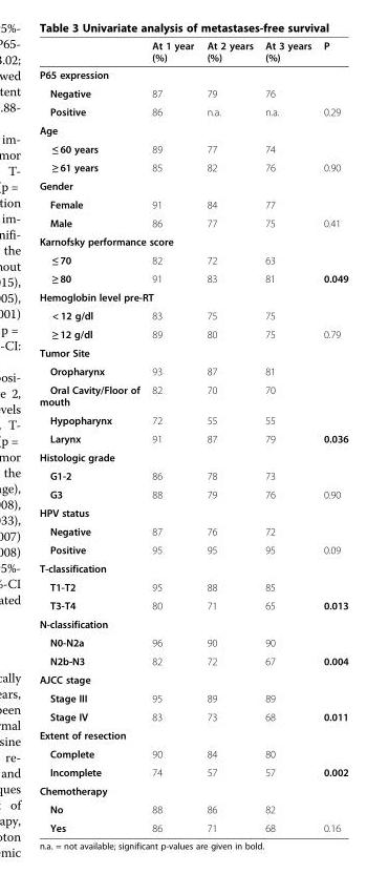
<table><thead><tr><td></td><td>At 1 year (%)</td><td>At 2 years (%)</td><td>At 3 years (%)</td><td>P</td></tr></thead><tbody><tr><td colspan="5">P65 expression</td></tr><tr><td>Negative</td><td>87</td><td>79</td><td>76</td><td></td></tr><tr><td>Positive</td><td>86</td><td>n.a.</td><td>n.a.</td><td>0.29</td></tr><tr><td colspan="5">Age</td></tr><tr><td>≤ 60 years</td><td>89</td><td>77</td><td>74</td><td></td></tr><tr><td>≥ 61 years</td><td>85</td><td>82</td><td>76</td><td>0.90</td></tr><tr><td colspan="5">Gender</td></tr><tr><td>Female</td><td>91</td><td>84</td><td>77</td><td></td></tr><tr><td>Male</td><td>86</td><td>77</td><td>75</td><td>0.41</td></tr><tr><td colspan="5">Karnofsky performance score</td></tr><tr><td>≤ 70</td><td>82</td><td>72</td><td>63</td><td></td></tr><tr><td>≥ 80</td><td>91</td><td>83</td><td>81</td><td>0.049</td></tr><tr><td colspan="5">Hemoglobin level pre-RT</td></tr><tr><td>&lt; 12 g/dl</td><td>83</td><td>75</td><td>75</td><td></td></tr><tr><td>≥ 12 g/dl</td><td>89</td><td>80</td><td>75</td><td>0.79</td></tr><tr><td colspan="5">Tumor Site</td></tr><tr><td>Oropharynx</td><td>93</td><td>87</td><td>81</td><td></td></tr><tr><td>Oral Cavity/Floor of mouth</td><td>82</td><td>70</td><td>70</td><td></td></tr><tr><td>Hypopharynx</td><td>72</td><td>55</td><td>55</td><td></td></tr><tr><td>Larynx</td><td>91</td><td>87</td><td>79</td><td>0.036</td></tr><tr><td colspan="5">Histologic grade</td></tr><tr><td>G1-2</td><td>86</td><td>78</td><td>73</td><td></td></tr><tr><td>G3</td><td>88</td><td>79</td><td>76</td><td>0.90</td></tr><tr><td colspan="5">HPV status</td></tr><tr><td>Negative</td><td>87</td><td>76</td><td>72</td><td></td></tr><tr><td>Positive</td><td>95</td><td>95</td><td>95</td><td>0.09</td></tr><tr><td colspan="5">T-classification</td></tr><tr><td>T1-T2</td><td>95</td><td>88</td><td>85</td><td></td></tr><tr><td>T3-T4</td><td>80</td><td>71</td><td>65</td><td>0.013</td></tr><tr><td colspan="5">N-classification</td></tr><tr><td>N0-N2a</td><td>96</td><td>90</td><td>90</td><td></td></tr><tr><td>N2b-N3</td><td>82</td><td>72</td><td>67</td><td>0.004</td></tr><tr><td colspan="5">AJCC stage</td></tr><tr><td>Stage III</td><td>95</td><td>89</td><td>89</td><td></td></tr><tr><td>Stage IV</td><td>83</td><td>73</td><td>68</td><td>0.011</td></tr><tr><td colspan="5">Extent of resection</td></tr><tr><td>Complete</td><td>90</td><td>84</td><td>80</td><td></td></tr><tr><td>Incomplete</td><td>74</td><td>57</td><td>57</td><td>0.002</td></tr><tr><td colspan="5">Chemotherapy</td></tr><tr><td>No</td><td>88</td><td>86</td><td>82</td><td></td></tr><tr><td>Yes</td><td>86</td><td>71</td><td>68</td><td>0.16</td></tr></tbody></table>